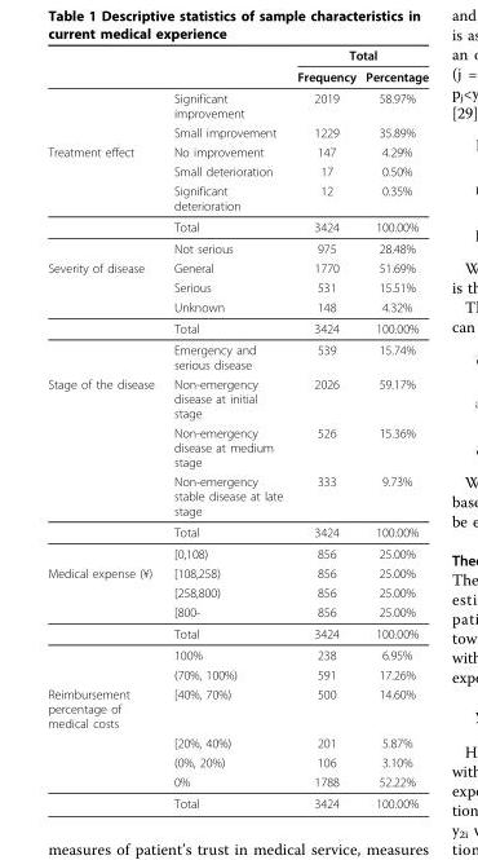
<table><thead><tr><td rowspan="2"></td><td rowspan="2"></td><td colspan="2">Total</td></tr><tr><td>Frequency</td><td>Percentage</td></tr></thead><tbody><tr><td></td><td>Significant improvement</td><td>2019</td><td>58.97%</td></tr><tr><td></td><td>Small improvement</td><td>1229</td><td>35.89%</td></tr><tr><td rowspan="5">Treatment effect</td><td>No improvement</td><td>147</td><td>4.29%</td></tr><tr><td>Small deterioration</td><td>17</td><td>0.50%</td></tr><tr><td>Significant deterioration</td><td>12</td><td>0.35%</td></tr><tr><td>Total</td><td>3424</td><td>100.00%</td></tr><tr><td>Not serious</td><td>975</td><td>28.48%</td></tr><tr><td rowspan="5">Severity of disease</td><td>General</td><td>1770</td><td>51.69%</td></tr><tr><td>Serious</td><td>531</td><td>15.51%</td></tr><tr><td>Unknown</td><td>148</td><td>4.32%</td></tr><tr><td>Total</td><td>3424</td><td>100.00%</td></tr><tr><td>Emergency and serious disease</td><td>539</td><td>15.74%</td></tr><tr><td rowspan="5">Stage of the disease</td><td>Non-emergency disease at initial stage</td><td>2026</td><td>59.17%</td></tr><tr><td>Non-emergency disease at medium stage</td><td>526</td><td>15.36%</td></tr><tr><td>Non-emergency stable disease at late stage</td><td>333</td><td>9.73%</td></tr><tr><td>Total</td><td>3424</td><td>100.00%</td></tr><tr><td>[0,108)</td><td>856</td><td>25.00%</td></tr><tr><td rowspan="6">Medical expense (¥)</td><td>[108,258)</td><td>856</td><td>25.00%</td></tr><tr><td>[258,800)</td><td>856</td><td>25.00%</td></tr><tr><td>[800-</td><td>856</td><td>25.00%</td></tr><tr><td>Total</td><td>3424</td><td>100.00%</td></tr><tr><td>100%</td><td>238</td><td>6.95%</td></tr><tr><td>(70%, 100%)</td><td>591</td><td>17.26%</td></tr><tr><td rowspan="5">Reimbursement percentage of medical costs</td><td>[40%, 70%)</td><td>500</td><td>14.60%</td></tr><tr><td>[20%, 40%)</td><td>201</td><td>5.87%</td></tr><tr><td>(0%, 20%)</td><td>106</td><td>3.10%</td></tr><tr><td>0%</td><td>1788</td><td>52.22%</td></tr><tr><td>Total</td><td>3424</td><td>100.00%</td></tr></tbody></table>